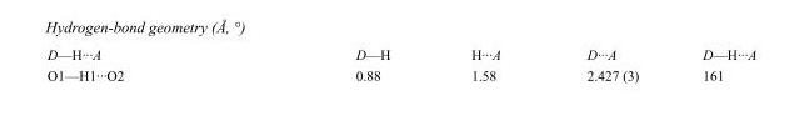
<table><tbody><tr><td>D—H···A</td><td>D—H</td><td>H···A</td><td>D···A</td><td>D—H···A</td></tr><tr><td>O1—H1···O2</td><td>0.88</td><td>1.58</td><td>2.427 (3)</td><td>161</td></tr></tbody></table>